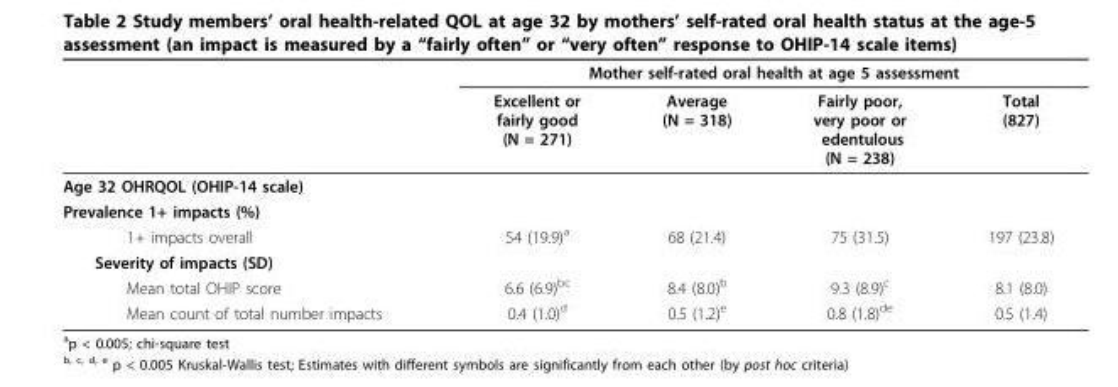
<table><thead><tr><td rowspan="2"></td><td colspan="4">Mother self-rated oral health at age 5 assessment</td></tr><tr><td>Excellent or fairly good (N = 271)</td><td>Average (N = 318)</td><td>Fairly poor, very poor or edentulous (N = 238)</td><td>Total (827)</td></tr></thead><tbody><tr><td colspan="5">Age 32 OHRQOL (OHIP-14 scale)</td></tr><tr><td colspan="5">Prevalence 1+ impacts (%)</td></tr><tr><td>1+ impacts overall</td><td>54 (19.9)<sup>a</sup></td><td>68 (21.4)</td><td>75 (31.5)</td><td>197 (23.8)</td></tr><tr><td colspan="5">Severity of impacts (SD)</td></tr><tr><td>Mean total OHIP score</td><td>6.6 (6.9)<sup>bc</sup></td><td>8.4 (8.0)<sup>b</sup></td><td>9.3 (8.9)<sup>c</sup></td><td>8.1 (8.0)</td></tr><tr><td>Mean count of total number impacts</td><td>0.4 (1.0)<sup>d</sup></td><td>0.5 (1.2)<sup>e</sup></td><td>0.8 (1.8)<sup>de</sup></td><td>0.5 (1.4)</td></tr></tbody></table>